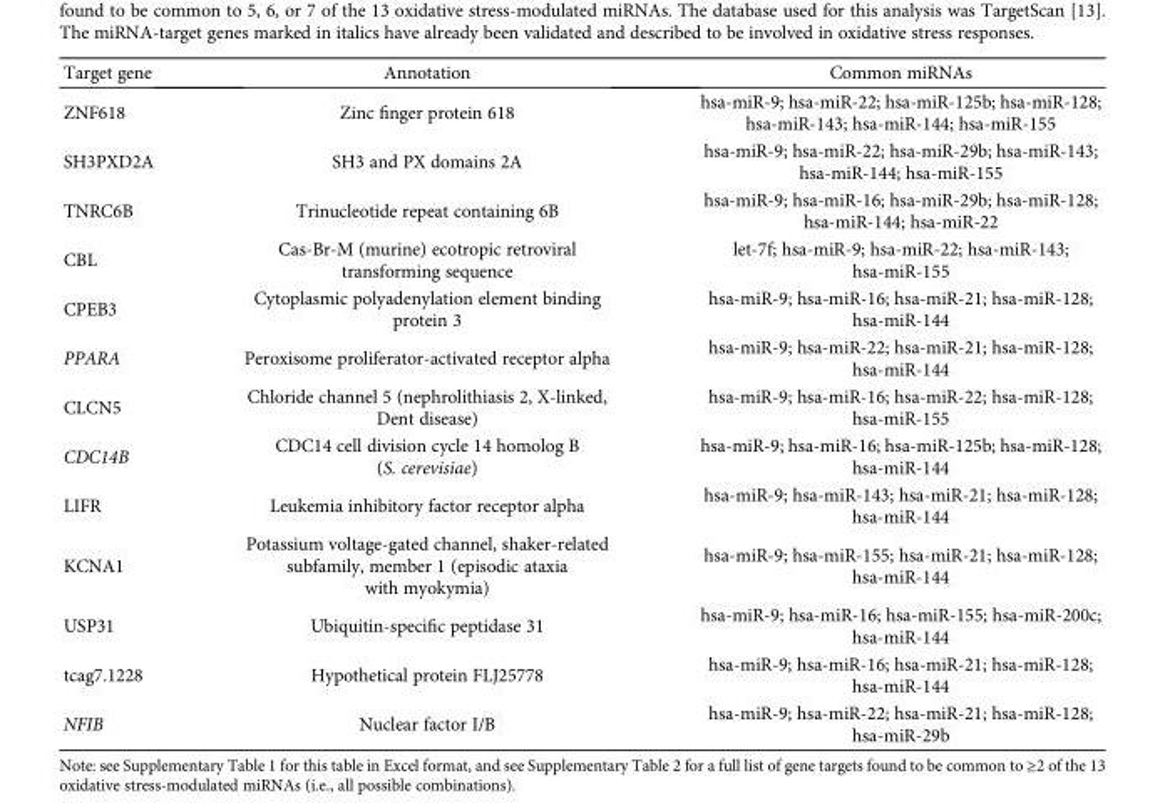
<table><thead><tr><td>Target gene</td><td>Annotation</td><td>Common miRNAs</td></tr></thead><tbody><tr><td>ZNF618</td><td>Zinc finger protein 618</td><td>hsa-miR-9; hsa-miR-22; hsa-miR-125b; hsa-miR-128; hsa-miR-143; hsa-miR-144; hsa-miR-155</td></tr><tr><td>SH3PXD2A</td><td>SH3 and PX domains 2A</td><td>hsa-miR-9; hsa-miR-22; hsa-miR-29b; hsa-miR-143; hsa-miR-144; hsa-miR-155</td></tr><tr><td>TNRC6B</td><td>Trinucleotide repeat containing 6B</td><td>hsa-miR-9; hsa-miR-16; hsa-miR-29b; hsa-miR-128; hsa-miR-144; hsa-miR-22</td></tr><tr><td>CBL</td><td>Cas-Br-M (murine) ecotropic retroviral transforming sequence</td><td>let-7f; hsa-miR-9; hsa-miR-22; hsa-miR-143; hsa-miR-155</td></tr><tr><td>CPEB3</td><td>Cytoplasmic polyadenylation element binding protein 3</td><td>hsa-miR-9; hsa-miR-16; hsa-miR-21; hsa-miR-128; hsa-miR-144</td></tr><tr><td>PPARA</td><td>Peroxisome proliferator-activated receptor alpha</td><td>hsa-miR-9; hsa-miR-22; hsa-miR-21; hsa-miR-128; hsa-miR-144</td></tr><tr><td>CLCN5</td><td>Chloride channel 5 (nephrolithiasis 2, X-linked, Dent disease)</td><td>hsa-miR-9; hsa-miR-16; hsa-miR-22; hsa-miR-128; hsa-miR-155</td></tr><tr><td>CDC14B</td><td>CDC14 cell division cycle 14 homolog B (S. cerevisiae)</td><td>hsa-miR-9; hsa-miR-16; hsa-miR-125b; hsa-miR-128; hsa-miR-144</td></tr><tr><td>LIFR</td><td>Leukemia inhibitory factor receptor alpha</td><td>hsa-miR-9; hsa-miR-143; hsa-miR-21; hsa-miR-128; hsa-miR-144</td></tr><tr><td>KCNA1</td><td>Potassium voltage-gated channel, shaker-related subfamily, member 1 (episodic ataxia with myokymia)</td><td>hsa-miR-9; hsa-miR-155; hsa-miR-21; hsa-miR-128; hsa-miR-144</td></tr><tr><td>USP31</td><td>Ubiquitin-specific peptidase 31</td><td>hsa-miR-9; hsa-miR-16; hsa-miR-155; hsa-miR-200c; hsa-miR-144</td></tr><tr><td>tcag7.1228</td><td>Hypothetical protein FLJ25778</td><td>hsa-miR-9; hsa-miR-16; hsa-miR-21; hsa-miR-128; hsa-miR-144</td></tr><tr><td>NFIB</td><td>Nuclear factor I/B</td><td>hsa-miR-9; hsa-miR-22; hsa-miR-21; hsa-miR-128; hsa-miR-29b</td></tr></tbody></table>